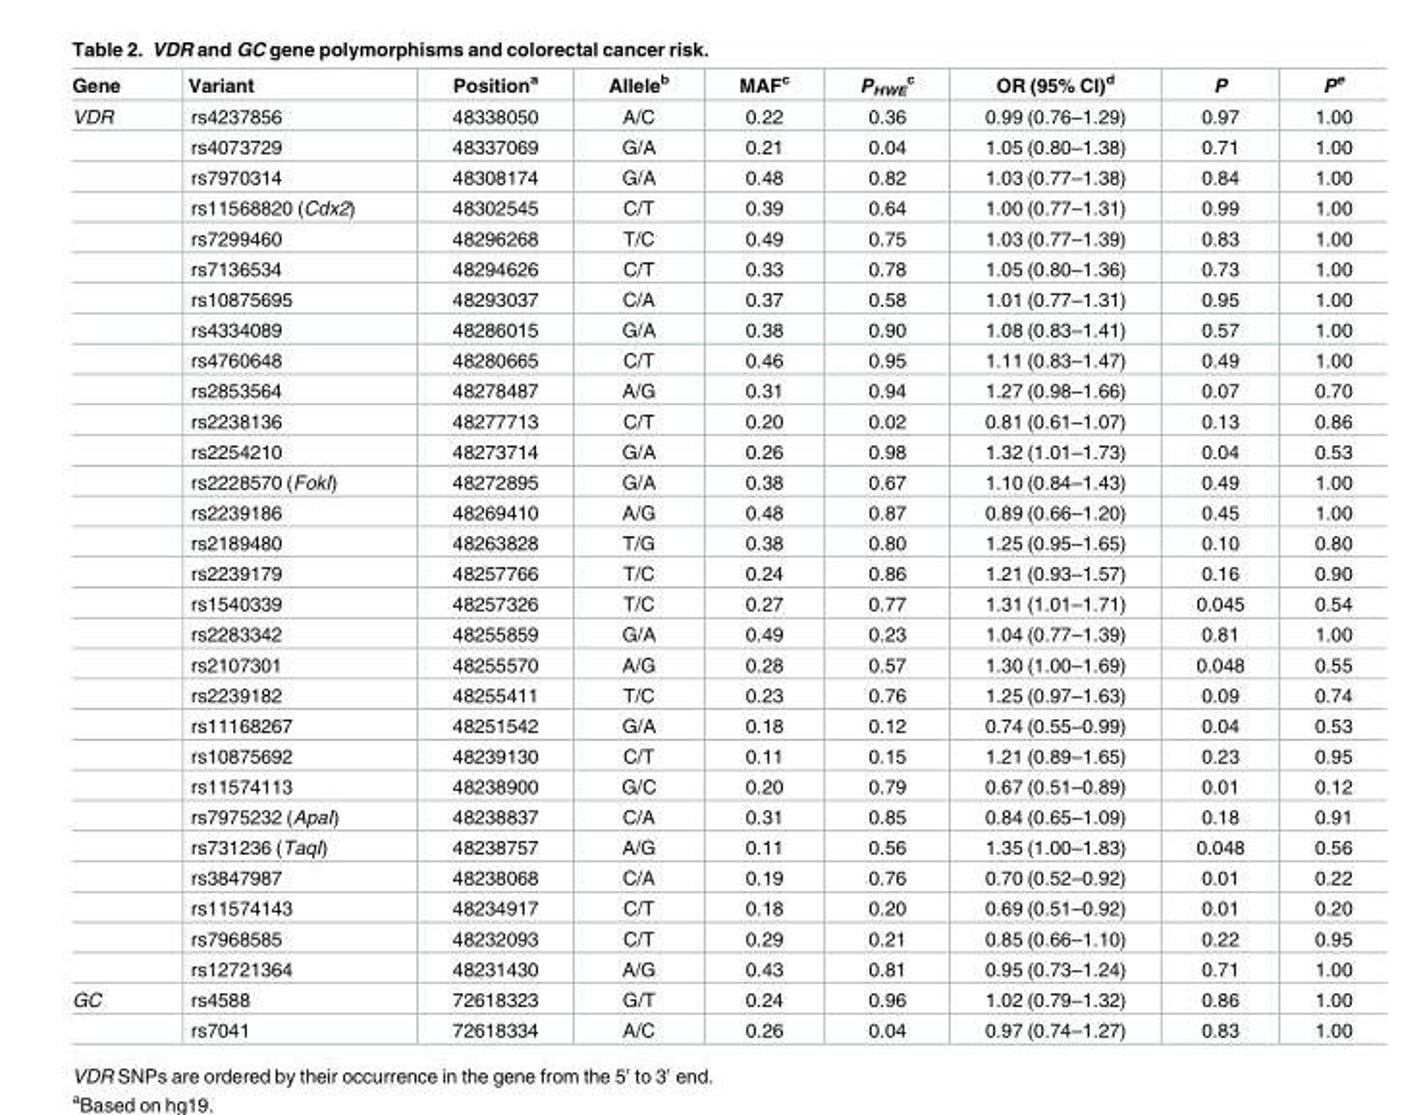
<table><thead><tr><td>Gene</td><td>Variant</td><td>Position<sup>a</sup></td><td>Allele<sup>b</sup></td><td>MAF<sup>c</sup></td><td>P<sub>HWE</sub> <sup>c</sup></td><td>OR (95% CI)<sup>d</sup></td><td>P</td><td>P<sup>e</sup></td></tr></thead><tbody><tr><td rowspan="29">VDR</td><td>rs4237856</td><td>48338050</td><td>A/C</td><td>0.22</td><td>0.36</td><td>0.99 (0.76–1.29)</td><td>0.97</td><td>1.00</td></tr><tr><td>rs4073729</td><td>48337069</td><td>G/A</td><td>0.21</td><td>0.04</td><td>1.05 (0.80–1.38)</td><td>0.71</td><td>1.00</td></tr><tr><td>rs7970314</td><td>48308174</td><td>G/A</td><td>0.48</td><td>0.82</td><td>1.03 (0.77–1.38)</td><td>0.84</td><td>1.00</td></tr><tr><td>rs11568820 (Cdx2)</td><td>48302545</td><td>C/T</td><td>0.39</td><td>0.64</td><td>1.00 (0.77–1.31)</td><td>0.99</td><td>1.00</td></tr><tr><td>rs7299460</td><td>48296268</td><td>T/C</td><td>0.49</td><td>0.75</td><td>1.03 (0.77–1.39)</td><td>0.83</td><td>1.00</td></tr><tr><td>rs7136534</td><td>48294626</td><td>C/T</td><td>0.33</td><td>0.78</td><td>1.05 (0.80–1.36)</td><td>0.73</td><td>1.00</td></tr><tr><td>rs10875695</td><td>48293037</td><td>C/A</td><td>0.37</td><td>0.58</td><td>1.01 (0.77–1.31)</td><td>0.95</td><td>1.00</td></tr><tr><td>rs4334089</td><td>48286015</td><td>G/A</td><td>0.38</td><td>0.90</td><td>1.08 (0.83–1.41)</td><td>0.57</td><td>1.00</td></tr><tr><td>rs4760648</td><td>48280665</td><td>C/T</td><td>0.46</td><td>0.95</td><td>1.11 (0.83–1.47)</td><td>0.49</td><td>1.00</td></tr><tr><td>rs2853564</td><td>48278487</td><td>A/G</td><td>0.31</td><td>0.94</td><td>1.27 (0.98–1.66)</td><td>0.07</td><td>0.70</td></tr><tr><td>rs2238136</td><td>48277713</td><td>C/T</td><td>0.20</td><td>0.02</td><td>0.81 (0.61–1.07)</td><td>0.13</td><td>0.86</td></tr><tr><td>rs2254210</td><td>48273714</td><td>G/A</td><td>0.26</td><td>0.98</td><td>1.32 (1.01–1.73)</td><td>0.04</td><td>0.53</td></tr><tr><td>rs2228570 (FokI)</td><td>48272895</td><td>G/A</td><td>0.38</td><td>0.67</td><td>1.10 (0.84–1.43)</td><td>0.49</td><td>1.00</td></tr><tr><td>rs2239186</td><td>48269410</td><td>A/G</td><td>0.48</td><td>0.87</td><td>0.89 (0.66–1.20)</td><td>0.45</td><td>1.00</td></tr><tr><td>rs2189480</td><td>48263828</td><td>T/G</td><td>0.38</td><td>0.80</td><td>1.25 (0.95–1.65)</td><td>0.10</td><td>0.80</td></tr><tr><td>rs2239179</td><td>48257766</td><td>T/C</td><td>0.24</td><td>0.86</td><td>1.21 (0.93–1.57)</td><td>0.16</td><td>0.90</td></tr><tr><td>rs1540339</td><td>48257326</td><td>T/C</td><td>0.27</td><td>0.77</td><td>1.31 (1.01–1.71)</td><td>0.045</td><td>0.54</td></tr><tr><td>rs2283342</td><td>48255859</td><td>G/A</td><td>0.49</td><td>0.23</td><td>1.04 (0.77–1.39)</td><td>0.81</td><td>1.00</td></tr><tr><td>rs2107301</td><td>48255570</td><td>A/G</td><td>0.28</td><td>0.57</td><td>1.30 (1.00–1.69)</td><td>0.048</td><td>0.55</td></tr><tr><td>rs2239182</td><td>48255411</td><td>T/C</td><td>0.23</td><td>0.76</td><td>1.25 (0.97–1.63)</td><td>0.09</td><td>0.74</td></tr><tr><td>rs11168267</td><td>48251542</td><td>G/A</td><td>0.18</td><td>0.12</td><td>0.74 (0.55–0.99)</td><td>0.04</td><td>0.53</td></tr><tr><td>rs10875692</td><td>48239130</td><td>C/T</td><td>0.11</td><td>0.15</td><td>1.21 (0.89–1.65)</td><td>0.23</td><td>0.95</td></tr><tr><td>rs11574113</td><td>48238900</td><td>G/C</td><td>0.20</td><td>0.79</td><td>0.67 (0.51–0.89)</td><td>0.01</td><td>0.12</td></tr><tr><td>rs7975232 (ApaI)</td><td>48238837</td><td>C/A</td><td>0.31</td><td>0.85</td><td>0.84 (0.65–1.09)</td><td>0.18</td><td>0.91</td></tr><tr><td>rs731236 (TaqI)</td><td>48238757</td><td>A/G</td><td>0.11</td><td>0.56</td><td>1.35 (1.00–1.83)</td><td>0.048</td><td>0.56</td></tr><tr><td>rs3847987</td><td>48238068</td><td>C/A</td><td>0.19</td><td>0.76</td><td>0.70 (0.52–0.92)</td><td>0.01</td><td>0.22</td></tr><tr><td>rs11574143</td><td>48234917</td><td>C/T</td><td>0.18</td><td>0.20</td><td>0.69 (0.51–0.92)</td><td>0.01</td><td>0.20</td></tr><tr><td>rs7968585</td><td>48232093</td><td>C/T</td><td>0.29</td><td>0.21</td><td>0.85 (0.66–1.10)</td><td>0.22</td><td>0.95</td></tr><tr><td>rs12721364</td><td>48231430</td><td>A/G</td><td>0.43</td><td>0.81</td><td>0.95 (0.73–1.24)</td><td>0.71</td><td>1.00</td></tr><tr><td rowspan="2">GC</td><td>rs4588</td><td>72618323</td><td>G/T</td><td>0.24</td><td>0.96</td><td>1.02 (0.79–1.32)</td><td>0.86</td><td>1.00</td></tr><tr><td>rs7041</td><td>72618334</td><td>A/C</td><td>0.26</td><td>0.04</td><td>0.97 (0.74–1.27)</td><td>0.83</td><td>1.00</td></tr></tbody></table>